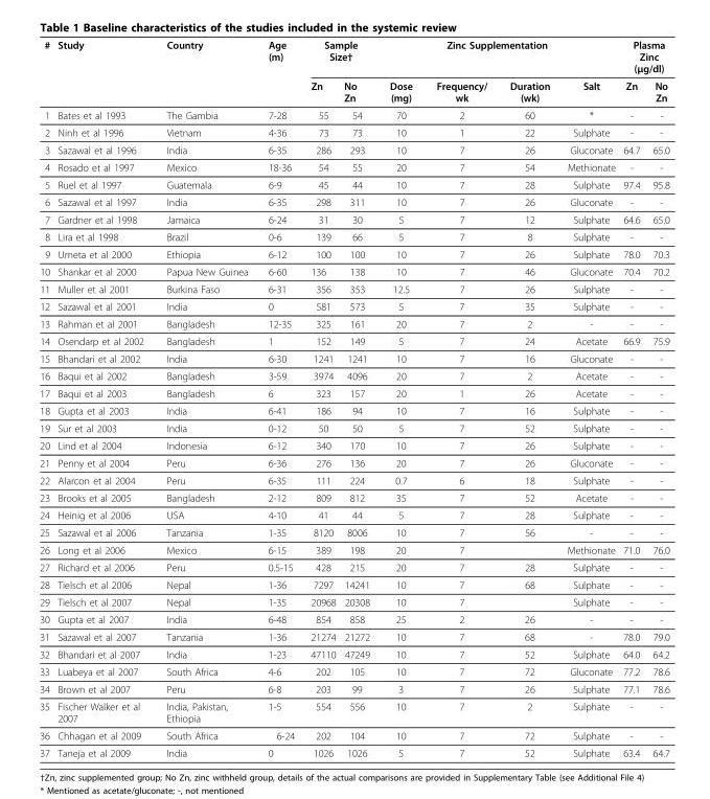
<table><thead><tr><td rowspan="2">#</td><td rowspan="2">Study</td><td rowspan="2">Country</td><td rowspan="2">Age (m)</td><td colspan="2">Sample Size†</td><td colspan="4">Zinc Supplementation</td><td colspan="2">Plasma Zinc (μg/dl)</td></tr><tr><td>Zn</td><td>No Zn</td><td>Dose (mg)</td><td>Frequency/ wk</td><td>Duration (wk)</td><td>Salt</td><td>Zn</td><td>No Zn</td></tr></thead><tbody><tr><td>1</td><td>Bates et al 1993</td><td>The Gambia</td><td>7-28</td><td>55</td><td>54</td><td>70</td><td>2</td><td>60</td><td>*</td><td>-</td><td>-</td></tr><tr><td>2</td><td>Ninh et al 1996</td><td>Vietnam</td><td>4-36</td><td>73</td><td>73</td><td>10</td><td>1</td><td>22</td><td>Sulphate</td><td>-</td><td>-</td></tr><tr><td>3</td><td>Sazawal et al 1996</td><td>India</td><td>6-35</td><td>286</td><td>293</td><td>10</td><td>7</td><td>26</td><td>Gluconate</td><td>64.7</td><td>65.0</td></tr><tr><td>4</td><td>Rosado et al 1997</td><td>Mexico</td><td>18-36</td><td>54</td><td>55</td><td>20</td><td>7</td><td>54</td><td>Methionate</td><td>-</td><td>-</td></tr><tr><td>5</td><td>Ruel et al 1997</td><td>Guatemala</td><td>6-9</td><td>45</td><td>44</td><td>10</td><td>7</td><td>28</td><td>Sulphate</td><td>97.4</td><td>95.8</td></tr><tr><td>6</td><td>Sazawal et al 1997</td><td>India</td><td>6-35</td><td>298</td><td>311</td><td>10</td><td>7</td><td>26</td><td>Gluconate</td><td>-</td><td>-</td></tr><tr><td>7</td><td>Gardner et al 1998</td><td>Jamaica</td><td>6-24</td><td>31</td><td>30</td><td>5</td><td>7</td><td>12</td><td>Sulphate</td><td>64.6</td><td>65.0</td></tr><tr><td>8</td><td>Lira et al 1998</td><td>Brazil</td><td>0-6</td><td>139</td><td>66</td><td>5</td><td>7</td><td>8</td><td>Sulphate</td><td>-</td><td>-</td></tr><tr><td>9</td><td>Umeta et al 2000</td><td>Ethiopia</td><td>6-12</td><td>100</td><td>100</td><td>10</td><td>7</td><td>26</td><td>Sulphate</td><td>78.0</td><td>70.3</td></tr><tr><td>10</td><td>Shankar et al 2000</td><td>Papua New Guinea</td><td>6-60</td><td>136</td><td>138</td><td>10</td><td>7</td><td>46</td><td>Gluconate</td><td>70.4</td><td>70.2</td></tr><tr><td>11</td><td>Muller et al 2001</td><td>Burkina Faso</td><td>6-31</td><td>356</td><td>353</td><td>12.5</td><td>7</td><td>26</td><td>Sulphate</td><td>-</td><td>-</td></tr><tr><td>12</td><td>Sazawal et al 2001</td><td>India</td><td>0</td><td>581</td><td>573</td><td>5</td><td>7</td><td>35</td><td>Sulphate</td><td>-</td><td>-</td></tr><tr><td>13</td><td>Rahman et al 2001</td><td>Bangladesh</td><td>12-35</td><td>325</td><td>161</td><td>20</td><td>7</td><td>2</td><td>-</td><td>-</td><td>-</td></tr><tr><td>14</td><td>Osendarp et al 2002</td><td>Bangladesh</td><td>1</td><td>152</td><td>149</td><td>5</td><td>7</td><td>24</td><td>Acetate</td><td>66.9</td><td>75.9</td></tr><tr><td>15</td><td>Bhandari et al 2002</td><td>India</td><td>6-30</td><td>1241</td><td>1241</td><td>10</td><td>7</td><td>16</td><td>Gluconate</td><td>-</td><td>-</td></tr><tr><td>16</td><td>Baqui et al 2002</td><td>Bangladesh</td><td>3-59</td><td>3974</td><td>4096</td><td>20</td><td>7</td><td>2</td><td>Acetate</td><td>-</td><td>-</td></tr><tr><td>17</td><td>Baqui et al 2003</td><td>Bangladesh</td><td>6</td><td>323</td><td>157</td><td>20</td><td>1</td><td>26</td><td>Acetate</td><td>-</td><td>-</td></tr><tr><td>18</td><td>Gupta et al 2003</td><td>India</td><td>6-41</td><td>186</td><td>94</td><td>10</td><td>7</td><td>16</td><td>Sulphate</td><td>-</td><td>-</td></tr><tr><td>19</td><td>Sur et al 2003</td><td>India</td><td>0-12</td><td>50</td><td>50</td><td>5</td><td>7</td><td>52</td><td>Sulphate</td><td>-</td><td>-</td></tr><tr><td>20</td><td>Lind et al 2004</td><td>Indonesia</td><td>6-12</td><td>340</td><td>170</td><td>10</td><td>7</td><td>26</td><td>Sulphate</td><td>-</td><td>-</td></tr><tr><td>21</td><td>Penny et al 2004</td><td>Peru</td><td>6-36</td><td>276</td><td>136</td><td>20</td><td>7</td><td>26</td><td>Gluconate</td><td>-</td><td>-</td></tr><tr><td>22</td><td>Alarcon et al 2004</td><td>Peru</td><td>6-35</td><td>111</td><td>224</td><td>0.7</td><td>6</td><td>18</td><td>Sulphate</td><td>-</td><td>-</td></tr><tr><td>23</td><td>Brooks et al 2005</td><td>Bangladesh</td><td>2-12</td><td>809</td><td>812</td><td>35</td><td>7</td><td>52</td><td>Acetate</td><td>-</td><td>-</td></tr><tr><td>24</td><td>Heinig et al 2006</td><td>USA</td><td>4-10</td><td>41</td><td>44</td><td>5</td><td>7</td><td>28</td><td>Sulphate</td><td>-</td><td>-</td></tr><tr><td>25</td><td>Sazawal et al 2006</td><td>Tanzania</td><td>1-35</td><td>8120</td><td>8006</td><td>10</td><td>7</td><td>56</td><td>-</td><td>-</td><td>-</td></tr><tr><td>26</td><td>Long et al 2006</td><td>Mexico</td><td>6-15</td><td>389</td><td>198</td><td>20</td><td>7</td><td></td><td>Methionate</td><td>71.0</td><td>76.0</td></tr><tr><td>27</td><td>Richard et al 2006</td><td>Peru</td><td>0.5-15</td><td>428</td><td>215</td><td>20</td><td>7</td><td>28</td><td>Sulphate</td><td>-</td><td>-</td></tr><tr><td>28</td><td>Tielsch et al 2006</td><td>Nepal</td><td>1-36</td><td>7297</td><td>14241</td><td>10</td><td>7</td><td>68</td><td>Sulphate</td><td>-</td><td>-</td></tr><tr><td>29</td><td>Tielsch et al 2007</td><td>Nepal</td><td>1-35</td><td>20968</td><td>20308</td><td>10</td><td>7</td><td></td><td>Sulphate</td><td>-</td><td>-</td></tr><tr><td>30</td><td>Gupta et al 2007</td><td>India</td><td>6-48</td><td>854</td><td>858</td><td>25</td><td>2</td><td>26</td><td>-</td><td>-</td><td>-</td></tr><tr><td>31</td><td>Sazawal et al 2007</td><td>Tanzania</td><td>1-36</td><td>21274</td><td>21272</td><td>10</td><td>7</td><td>68</td><td>-</td><td>78.0</td><td>79.0</td></tr><tr><td>32</td><td>Bhandari et al 2007</td><td>India</td><td>1-23</td><td>47110</td><td>47249</td><td>10</td><td>7</td><td>52</td><td>Sulphate</td><td>64.0</td><td>64.2</td></tr><tr><td>33</td><td>Luabeya et al 2007</td><td>South Africa</td><td>4-6</td><td>202</td><td>105</td><td>10</td><td>7</td><td>72</td><td>Gluconate</td><td>77.2</td><td>78.6</td></tr><tr><td>34</td><td>Brown et al 2007</td><td>Peru</td><td>6-8</td><td>203</td><td>99</td><td>3</td><td>7</td><td>26</td><td>Sulphate</td><td>77.1</td><td>78.6</td></tr><tr><td>35</td><td>Fischer Walker et al 2007</td><td>India, Pakistan, Ethiopia</td><td>1-5</td><td>554</td><td>556</td><td>10</td><td>7</td><td>2</td><td>Sulphate</td><td>-</td><td>-</td></tr><tr><td>36</td><td>Chhagan et al 2009</td><td>South Africa</td><td>6-24</td><td>202</td><td>104</td><td>10</td><td>7</td><td>72</td><td>Sulphate</td><td>-</td><td>-</td></tr><tr><td>37</td><td>Taneja et al 2009</td><td>India</td><td>0</td><td>1026</td><td>1026</td><td>5</td><td>7</td><td>52</td><td>Sulphate</td><td>63.4</td><td>64.7</td></tr></tbody></table>